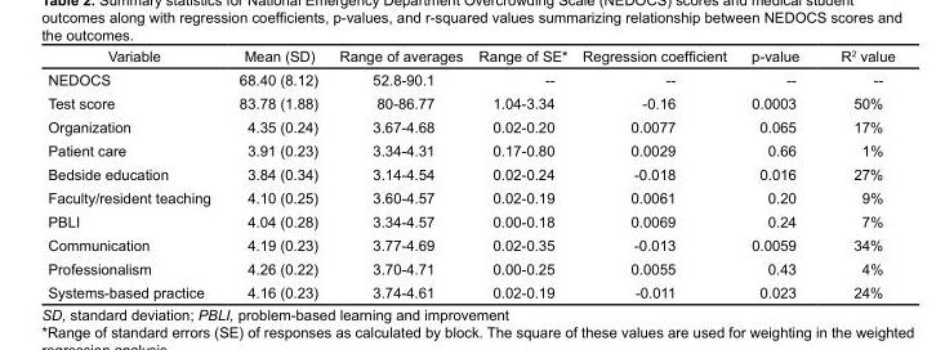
<table><thead><tr><td>Variable</td><td>Mean (SD)</td><td>Range of averages</td><td>Range of SE*</td><td>Regression coefficient</td><td>p-value</td><td>R<sup>2</sup> value</td></tr></thead><tbody><tr><td>NEDOCS</td><td>68.40 (8.12)</td><td>52.8-90.1</td><td>--</td><td>--</td><td>--</td><td>--</td></tr><tr><td>Test score</td><td>83.78 (1.88)</td><td>80-86.77</td><td>1.04-3.34</td><td>-0.16</td><td>0.0003</td><td>50%</td></tr><tr><td>Organization</td><td>4.35 (0.24)</td><td>3.67-4.68</td><td>0.02-0.20</td><td>0.0077</td><td>0.065</td><td>17%</td></tr><tr><td>Patient care</td><td>3.91 (0.23)</td><td>3.34-4.31</td><td>0.17-0.80</td><td>0.0029</td><td>0.66</td><td>1%</td></tr><tr><td>Bedside education</td><td>3.84 (0.34)</td><td>3.14-4.54</td><td>0.02-0.24</td><td>-0.018</td><td>0.016</td><td>27%</td></tr><tr><td>Faculty/resident teaching</td><td>4.10 (0.25)</td><td>3.60-4.57</td><td>0.02-0.19</td><td>0.0061</td><td>0.20</td><td>9%</td></tr><tr><td>PBLI</td><td>4.04 (0.28)</td><td>3.34-4.57</td><td>0.00-0.18</td><td>0.0069</td><td>0.24</td><td>7%</td></tr><tr><td>Communication</td><td>4.19 (0.23)</td><td>3.77-4.69</td><td>0.02-0.35</td><td>-0.013</td><td>0.0059</td><td>34%</td></tr><tr><td>Professionalism</td><td>4.26 (0.22)</td><td>3.70-4.71</td><td>0.00-0.25</td><td>0.0055</td><td>0.43</td><td>4%</td></tr><tr><td>Systems-based practice</td><td>4.16 (0.23)</td><td>3.74-4.61</td><td>0.02-0.19</td><td>-0.011</td><td>0.023</td><td>24%</td></tr></tbody></table>